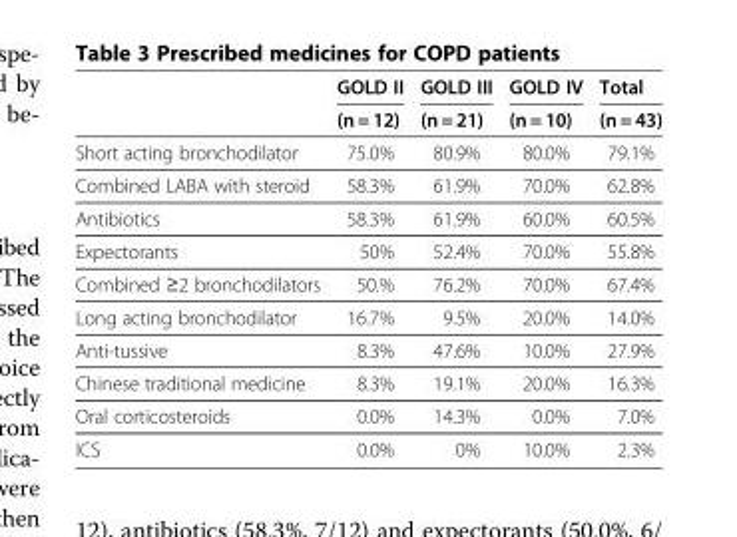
<table><thead><tr><td rowspan="2"></td><td rowspan="2">GOLD II (n = 12)</td><td rowspan="2">GOLD III (n = 21)</td><td rowspan="2">GOLD IV (n = 10)</td><td rowspan="2">Total (n = 43)</td></tr><tr></tr></thead><tbody><tr><td>Short acting bronchodilator</td><td>75.0%</td><td>80.9%</td><td>80.0%</td><td>79.1%</td></tr><tr><td>Combined LABA with steroid</td><td>58.3%</td><td>61.9%</td><td>70.0%</td><td>62.8%</td></tr><tr><td>Antibiotics</td><td>58.3%</td><td>61.9%</td><td>60.0%</td><td>60.5%</td></tr><tr><td>Expectorants</td><td>50%</td><td>52.4%</td><td>70.0%</td><td>55.8%</td></tr><tr><td>Combined ≥2 bronchodilators</td><td>50.%</td><td>76.2%</td><td>70.0%</td><td>67.4%</td></tr><tr><td>Long acting bronchodilator</td><td>16.7%</td><td>9.5%</td><td>20.0%</td><td>14.0%</td></tr><tr><td>Anti-tussive</td><td>8.3%</td><td>47.6%</td><td>10.0%</td><td>27.9%</td></tr><tr><td>Chinese traditional medicine</td><td>8.3%</td><td>19.1%</td><td>20.0%</td><td>16.3%</td></tr><tr><td>Oral corticosteroids</td><td>0.0%</td><td>14.3%</td><td>0.0%</td><td>7.0%</td></tr><tr><td>ICS</td><td>0.0%</td><td>0%</td><td>10.0%</td><td>2.3%</td></tr></tbody></table>